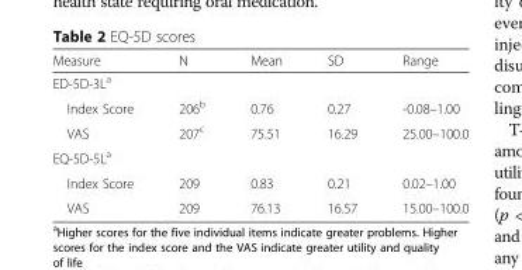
<table><thead><tr><td>Measure</td><td>N</td><td>Mean</td><td>SD</td><td>Range</td></tr></thead><tbody><tr><td colspan="5">ED-5D-3L<sup>a</sup></td></tr><tr><td>Index Score</td><td>206<sup>b</sup></td><td>0.76</td><td>0.27</td><td>-0.08–1.00</td></tr><tr><td>VAS</td><td>207<sup>c</sup></td><td>75.51</td><td>16.29</td><td>25.00–100.0</td></tr><tr><td colspan="5">EQ-5D-5L<sup>a</sup></td></tr><tr><td>Index Score</td><td>209</td><td>0.83</td><td>0.21</td><td>0.02–1.00</td></tr><tr><td>VAS</td><td>209</td><td>76.13</td><td>16.57</td><td>15.00–100.0</td></tr></tbody></table>